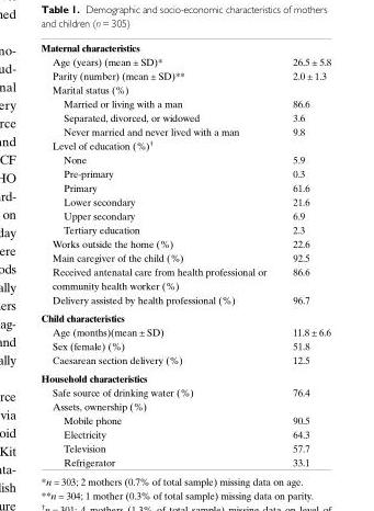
<table><tbody><tr><td colspan="2">Maternal characteristics</td></tr><tr><td>Age (years) (mean ± SD)*</td><td>26.5 ± 5.8</td></tr><tr><td>Parity (number) (mean ± SD)**</td><td>2.0 ± 1.3</td></tr><tr><td colspan="2">Marital status (%)</td></tr><tr><td>Married or living with a man</td><td>86.6</td></tr><tr><td>Separated, divorced, or widowed</td><td>3.6</td></tr><tr><td>Never married and never lived with a man</td><td>9.8</td></tr><tr><td colspan="2">Level of education (%)†</td></tr><tr><td>None</td><td>5.9</td></tr><tr><td>Pre-primary</td><td>0.3</td></tr><tr><td>Primary</td><td>61.6</td></tr><tr><td>Lower secondary</td><td>21.6</td></tr><tr><td>Upper secondary</td><td>6.9</td></tr><tr><td>Tertiary education</td><td>2.3</td></tr><tr><td>Works outside the home (%)</td><td>22.6</td></tr><tr><td>Main caregiver of the child (%)</td><td>92.5</td></tr><tr><td>Received antenatal care from health professional or community health worker (%)</td><td>86.6</td></tr><tr><td>Delivery assisted by health professional (%)</td><td>96.7</td></tr><tr><td colspan="2">Child characteristics</td></tr><tr><td>Age (months)(mean ± SD)</td><td>11.8 ± 6.6</td></tr><tr><td>Sex (female) (%)</td><td>51.8</td></tr><tr><td>Caesarean section delivery (%)</td><td>12.5</td></tr><tr><td colspan="2">Household characteristics</td></tr><tr><td>Safe source of drinking water (%)</td><td>76.4</td></tr><tr><td colspan="2">Assets, ownership (%)</td></tr><tr><td>Mobile phone</td><td>90.5</td></tr><tr><td>Electricity</td><td>64.3</td></tr><tr><td>Television</td><td>57.7</td></tr><tr><td>Refrigerator</td><td>33.1</td></tr></tbody></table>